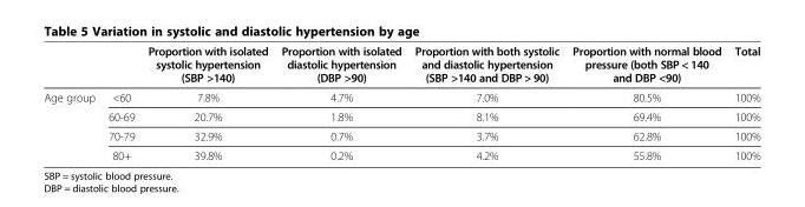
<table><thead><tr><td></td><td></td><td>Proportion with isolated systolic hypertension (SBP &gt;140)</td><td>Proportion with isolated diastolic hypertension (DBP &gt;90)</td><td>Proportion with both systolic and diastolic hypertension (SBP &gt;140 and DBP &gt; 90)</td><td>Proportion with normal blood pressure (both SBP &lt; 140 and DBP &lt;90)</td><td>Total</td></tr></thead><tbody><tr><td rowspan="4">Age group</td><td>&lt;60</td><td>7.8%</td><td>4.7%</td><td>7.0%</td><td>80.5%</td><td>100%</td></tr><tr><td>60-69</td><td>20.7%</td><td>1.8%</td><td>8.1%</td><td>69.4%</td><td>100%</td></tr><tr><td>70-79</td><td>32.9%</td><td>0.7%</td><td>3.7%</td><td>62.8%</td><td>100%</td></tr><tr><td>80+</td><td>39.8%</td><td>0.2%</td><td>4.2%</td><td>55.8%</td><td>100%</td></tr></tbody></table>